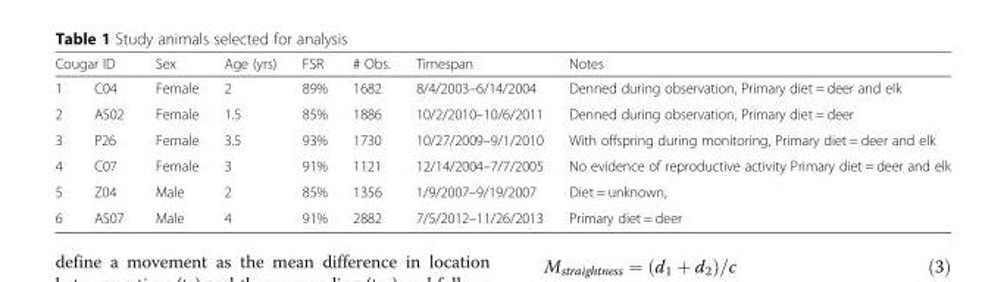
<table><thead><tr><td colspan="2">Cougar ID</td><td rowspan="2">Sex Female</td><td rowspan="2">Age (yrs) 2</td><td rowspan="2">FSR 89%</td><td rowspan="2"># Obs. 1682</td><td rowspan="2">Timespan 8/4/2003–6/14/2004</td><td rowspan="2">Notes Denned during observation, Primary diet = deer and elk</td></tr><tr><td>1</td><td>C04</td></tr></thead><tbody><tr><td>2</td><td>AS02</td><td>Female</td><td>1.5</td><td>85%</td><td>1886</td><td>10/2/2010–10/6/2011</td><td>Denned during observation, Primary diet = deer</td></tr><tr><td>3</td><td>P26</td><td>Female</td><td>3.5</td><td>93%</td><td>1730</td><td>10/27/2009–9/1/2010</td><td>With offspring during monitoring, Primary diet = deer and elk</td></tr><tr><td>4</td><td>C07</td><td>Female</td><td>3</td><td>91%</td><td>1121</td><td>12/14/2004–7/7/2005</td><td>No evidence of reproductive activity Primary diet = deer and elk</td></tr><tr><td>5</td><td>Z04</td><td>Male</td><td>2</td><td>85%</td><td>1356</td><td>1/9/2007–9/19/2007</td><td>Diet = unknown,</td></tr><tr><td>6</td><td>AS07</td><td>Male</td><td>4</td><td>91%</td><td>2882</td><td>7/5/2012–11/26/2013</td><td>Primary diet = deer</td></tr></tbody></table>